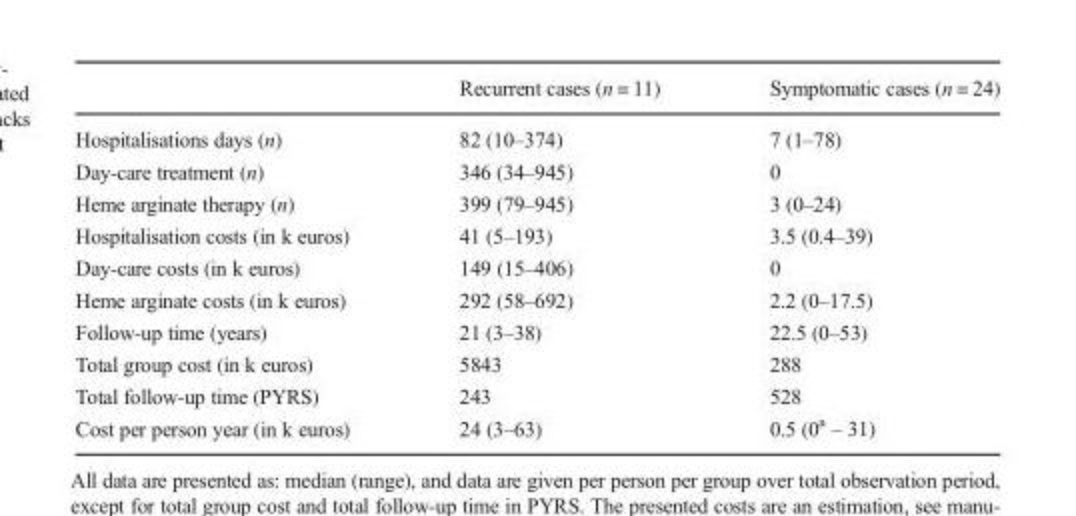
<table><thead><tr><td></td><td>Recurrent cases (n = 11)</td><td>Symptomatic cases (n = 24)</td></tr></thead><tbody><tr><td>Hospitalisations days (n)</td><td>82 (10–374)</td><td>7 (1–78)</td></tr><tr><td>Day-care treatment (n)</td><td>346 (34–945)</td><td>0</td></tr><tr><td>Heme arginate therapy (n)</td><td>399 (79–945)</td><td>3 (0–24)</td></tr><tr><td>Hospitalisation costs (in k euros)</td><td>41 (5–193)</td><td>3.5 (0.4–39)</td></tr><tr><td>Day-care costs (in k euros)</td><td>149 (15–406)</td><td>0</td></tr><tr><td>Heme arginate costs (in k euros)</td><td>292 (58–692)</td><td>2.2 (0–17.5)</td></tr><tr><td>Follow-up time (years)</td><td>21 (3–38)</td><td>22.5 (0–53)</td></tr><tr><td>Total group cost (in k euros)</td><td>5843</td><td>288</td></tr><tr><td>Total follow-up time (PYRS)</td><td>243</td><td>528</td></tr><tr><td>Cost per person year (in k euros)</td><td>24 (3–63)</td><td>0.5 (0<sup>a</sup> – 31)</td></tr></tbody></table>